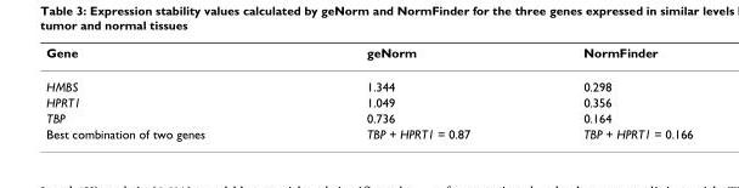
<table><thead><tr><td>Gene</td><td>geNorm</td><td>NormFinder</td></tr></thead><tbody><tr><td>HMBS</td><td>1.344</td><td>0.298</td></tr><tr><td>HPRT1</td><td>1.049</td><td>0.356</td></tr><tr><td>TBP</td><td>0.736</td><td>0.164</td></tr><tr><td>Best combination of two genes</td><td>TBP + HPRT1 = 0.87</td><td>TBP + HPRT1 = 0.166</td></tr></tbody></table>